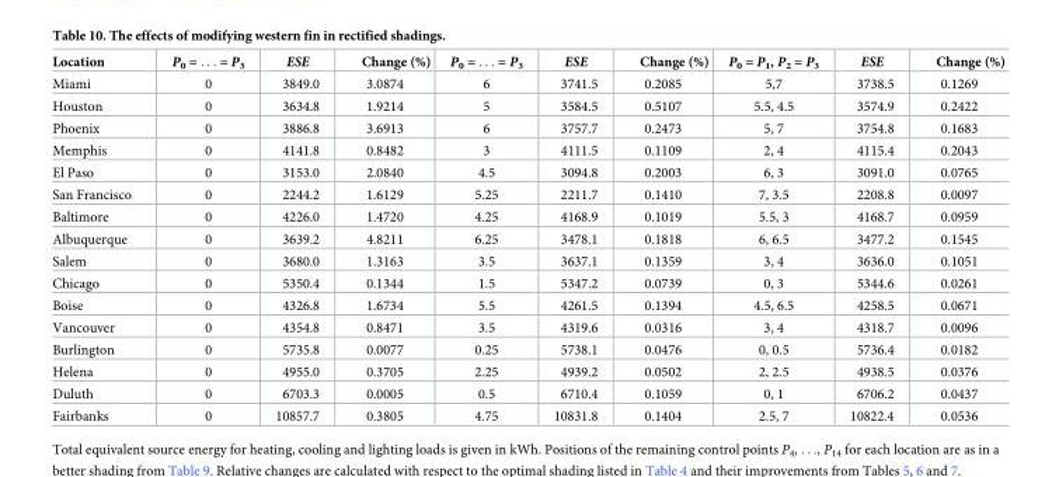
<table><thead><tr><td>Location</td><td>P<sub>0</sub> = . . . = P<sub>3</sub></td><td>ESE</td><td>Change (%)</td><td>P<sub>0</sub> = . . . = P<sub>3</sub></td><td>ESE</td><td>Change (%)</td><td>P<sub>0</sub> = P<sub>1</sub>, P<sub>2</sub> = P<sub>3</sub></td><td>ESE</td><td>Change (%)</td></tr></thead><tbody><tr><td>Miami</td><td>0</td><td>3849.0</td><td>3.0874</td><td>6</td><td>3741.5</td><td>0.2085</td><td>5,7</td><td>3738.5</td><td>0.1269</td></tr><tr><td>Houston</td><td>0</td><td>3634.8</td><td>1.9214</td><td>5</td><td>3584.5</td><td>0.5107</td><td>5.5, 4.5</td><td>3574.9</td><td>0.2422</td></tr><tr><td>Phoenix</td><td>0</td><td>3886.8</td><td>3.6913</td><td>6</td><td>3757.7</td><td>0.2473</td><td>5, 7</td><td>3754.8</td><td>0.1683</td></tr><tr><td>Memphis</td><td>0</td><td>4141.8</td><td>0.8482</td><td>3</td><td>4111.5</td><td>0.1109</td><td>2, 4</td><td>4115.4</td><td>0.2043</td></tr><tr><td>El Paso</td><td>0</td><td>3153.0</td><td>2.0840</td><td>4.5</td><td>3094.8</td><td>0.2003</td><td>6, 3</td><td>3091.0</td><td>0.0765</td></tr><tr><td>San Francisco</td><td>0</td><td>2244.2</td><td>1.6129</td><td>5.25</td><td>2211.7</td><td>0.1410</td><td>7, 3.5</td><td>2208.8</td><td>0.0097</td></tr><tr><td>Baltimore</td><td>0</td><td>4226.0</td><td>1.4720</td><td>4.25</td><td>4168.9</td><td>0.1019</td><td>5.5, 3</td><td>4168.7</td><td>0.0959</td></tr><tr><td>Albuquerque</td><td>0</td><td>3639.2</td><td>4.8211</td><td>6.25</td><td>3478.1</td><td>0.1818</td><td>6, 6.5</td><td>3477.2</td><td>0.1545</td></tr><tr><td>Salem</td><td>0</td><td>3680.0</td><td>1.3163</td><td>3.5</td><td>3637.1</td><td>0.1359</td><td>3, 4</td><td>3636.0</td><td>0.1051</td></tr><tr><td>Chicago</td><td>0</td><td>5350.4</td><td>0.1344</td><td>1.5</td><td>5347.2</td><td>0.0739</td><td>0, 3</td><td>5344.6</td><td>0.0261</td></tr><tr><td>Boise</td><td>0</td><td>4326.8</td><td>1.6734</td><td>5.5</td><td>4261.5</td><td>0.1394</td><td>4.5, 6.5</td><td>4258.5</td><td>0.0671</td></tr><tr><td>Vancouver</td><td>0</td><td>4354.8</td><td>0.8471</td><td>3.5</td><td>4319.6</td><td>0.0316</td><td>3, 4</td><td>4318.7</td><td>0.0096</td></tr><tr><td>Burlington</td><td>0</td><td>5735.8</td><td>0.0077</td><td>0.25</td><td>5738.1</td><td>0.0476</td><td>0, 0.5</td><td>5736.4</td><td>0.0182</td></tr><tr><td>Helena</td><td>0</td><td>4955.0</td><td>0.3705</td><td>2.25</td><td>4939.2</td><td>0.0502</td><td>2, 2.5</td><td>4938.5</td><td>0.0376</td></tr><tr><td>Duluth</td><td>0</td><td>6703.3</td><td>0.0005</td><td>0.5</td><td>6710.4</td><td>0.1059</td><td>0, 1</td><td>6706.2</td><td>0.0437</td></tr><tr><td>Fairbanks</td><td>0</td><td>10857.7</td><td>0.3805</td><td>4.75</td><td>10831.8</td><td>0.1404</td><td>2.5, 7</td><td>10822.4</td><td>0.0536</td></tr></tbody></table>